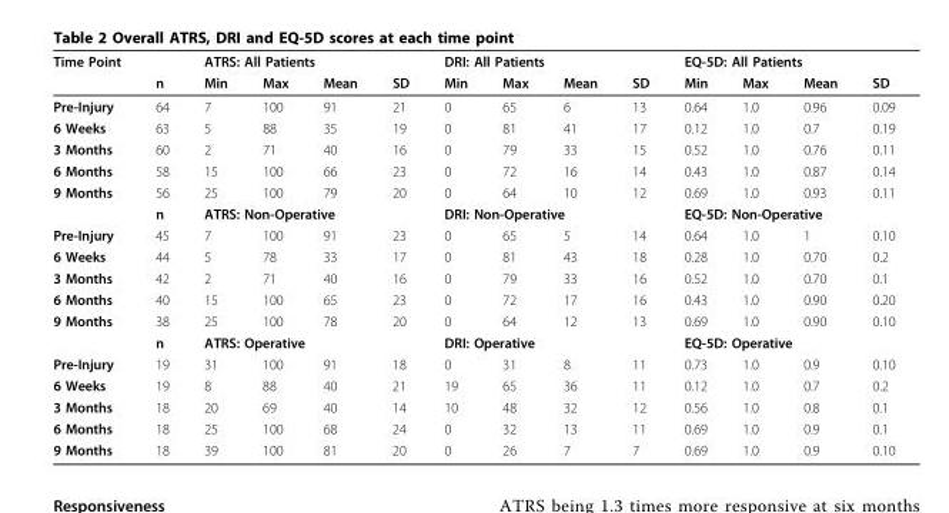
<table><thead><tr><td rowspan="2">Time Point</td><td rowspan="2">n</td><td colspan="4">ATRS: All Patients</td><td colspan="4">DRI: All Patients</td><td colspan="4">EQ-5D: All Patients</td></tr><tr><td>Min</td><td>Max</td><td>Mean</td><td>SD</td><td>Min</td><td>Max</td><td>Mean</td><td>SD</td><td>Min</td><td>Max</td><td>Mean</td><td>SD</td></tr></thead><tbody><tr><td>Pre-Injury</td><td>64</td><td>7</td><td>100</td><td>91</td><td>21</td><td>0</td><td>65</td><td>6</td><td>13</td><td>0.64</td><td>1.0</td><td>0.96</td><td>0.09</td></tr><tr><td>6 Weeks</td><td>63</td><td>5</td><td>88</td><td>35</td><td>19</td><td>0</td><td>81</td><td>41</td><td>17</td><td>0.12</td><td>1.0</td><td>0.7</td><td>0.19</td></tr><tr><td>3 Months</td><td>60</td><td>2</td><td>71</td><td>40</td><td>16</td><td>0</td><td>79</td><td>33</td><td>15</td><td>0.52</td><td>1.0</td><td>0.76</td><td>0.11</td></tr><tr><td>6 Months</td><td>58</td><td>15</td><td>100</td><td>66</td><td>23</td><td>0</td><td>72</td><td>16</td><td>14</td><td>0.43</td><td>1.0</td><td>0.87</td><td>0.14</td></tr><tr><td rowspan="2">9 Months</td><td>56</td><td>25</td><td>100</td><td>79</td><td>20</td><td>0</td><td>64</td><td>10</td><td>12</td><td>0.69</td><td>1.0</td><td>0.93</td><td>0.11</td></tr><tr><td>n</td><td colspan="4">ATRS: Non-Operative</td><td colspan="4">DRI: Non-Operative</td><td colspan="4">EQ-5D: Non-Operative</td></tr><tr><td>Pre-Injury</td><td>45</td><td>7</td><td>100</td><td>91</td><td>23</td><td>0</td><td>65</td><td>5</td><td>14</td><td>0.64</td><td>1.0</td><td>1</td><td>0.10</td></tr><tr><td>6 Weeks</td><td>44</td><td>5</td><td>78</td><td>33</td><td>17</td><td>0</td><td>81</td><td>43</td><td>18</td><td>0.28</td><td>1.0</td><td>0.70</td><td>0.2</td></tr><tr><td>3 Months</td><td>42</td><td>2</td><td>71</td><td>40</td><td>16</td><td>0</td><td>79</td><td>33</td><td>16</td><td>0.52</td><td>1.0</td><td>0.70</td><td>0.1</td></tr><tr><td>6 Months</td><td>40</td><td>15</td><td>100</td><td>65</td><td>23</td><td>0</td><td>72</td><td>17</td><td>16</td><td>0.43</td><td>1.0</td><td>0.90</td><td>0.20</td></tr><tr><td rowspan="2">9 Months</td><td>38</td><td>25</td><td>100</td><td>78</td><td>20</td><td>0</td><td>64</td><td>12</td><td>13</td><td>0.69</td><td>1.0</td><td>0.90</td><td>0.10</td></tr><tr><td>n</td><td colspan="4">ATRS: Operative</td><td colspan="4">DRI: Operative</td><td colspan="4">EQ-5D: Operative</td></tr><tr><td>Pre-Injury</td><td>19</td><td>31</td><td>100</td><td>91</td><td>18</td><td>0</td><td>31</td><td>8</td><td>11</td><td>0.73</td><td>1.0</td><td>0.9</td><td>0.10</td></tr><tr><td>6 Weeks</td><td>19</td><td>8</td><td>88</td><td>40</td><td>21</td><td>19</td><td>65</td><td>36</td><td>11</td><td>0.12</td><td>1.0</td><td>0.7</td><td>0.2</td></tr><tr><td>3 Months</td><td>18</td><td>20</td><td>69</td><td>40</td><td>14</td><td>10</td><td>48</td><td>32</td><td>12</td><td>0.56</td><td>1.0</td><td>0.8</td><td>0.1</td></tr><tr><td>6 Months</td><td>18</td><td>25</td><td>100</td><td>68</td><td>24</td><td>0</td><td>32</td><td>13</td><td>11</td><td>0.69</td><td>1.0</td><td>0.9</td><td>0.1</td></tr><tr><td>9 Months</td><td>18</td><td>39</td><td>100</td><td>81</td><td>20</td><td>0</td><td>26</td><td>7</td><td>7</td><td>0.69</td><td>1.0</td><td>0.9</td><td>0.10</td></tr></tbody></table>